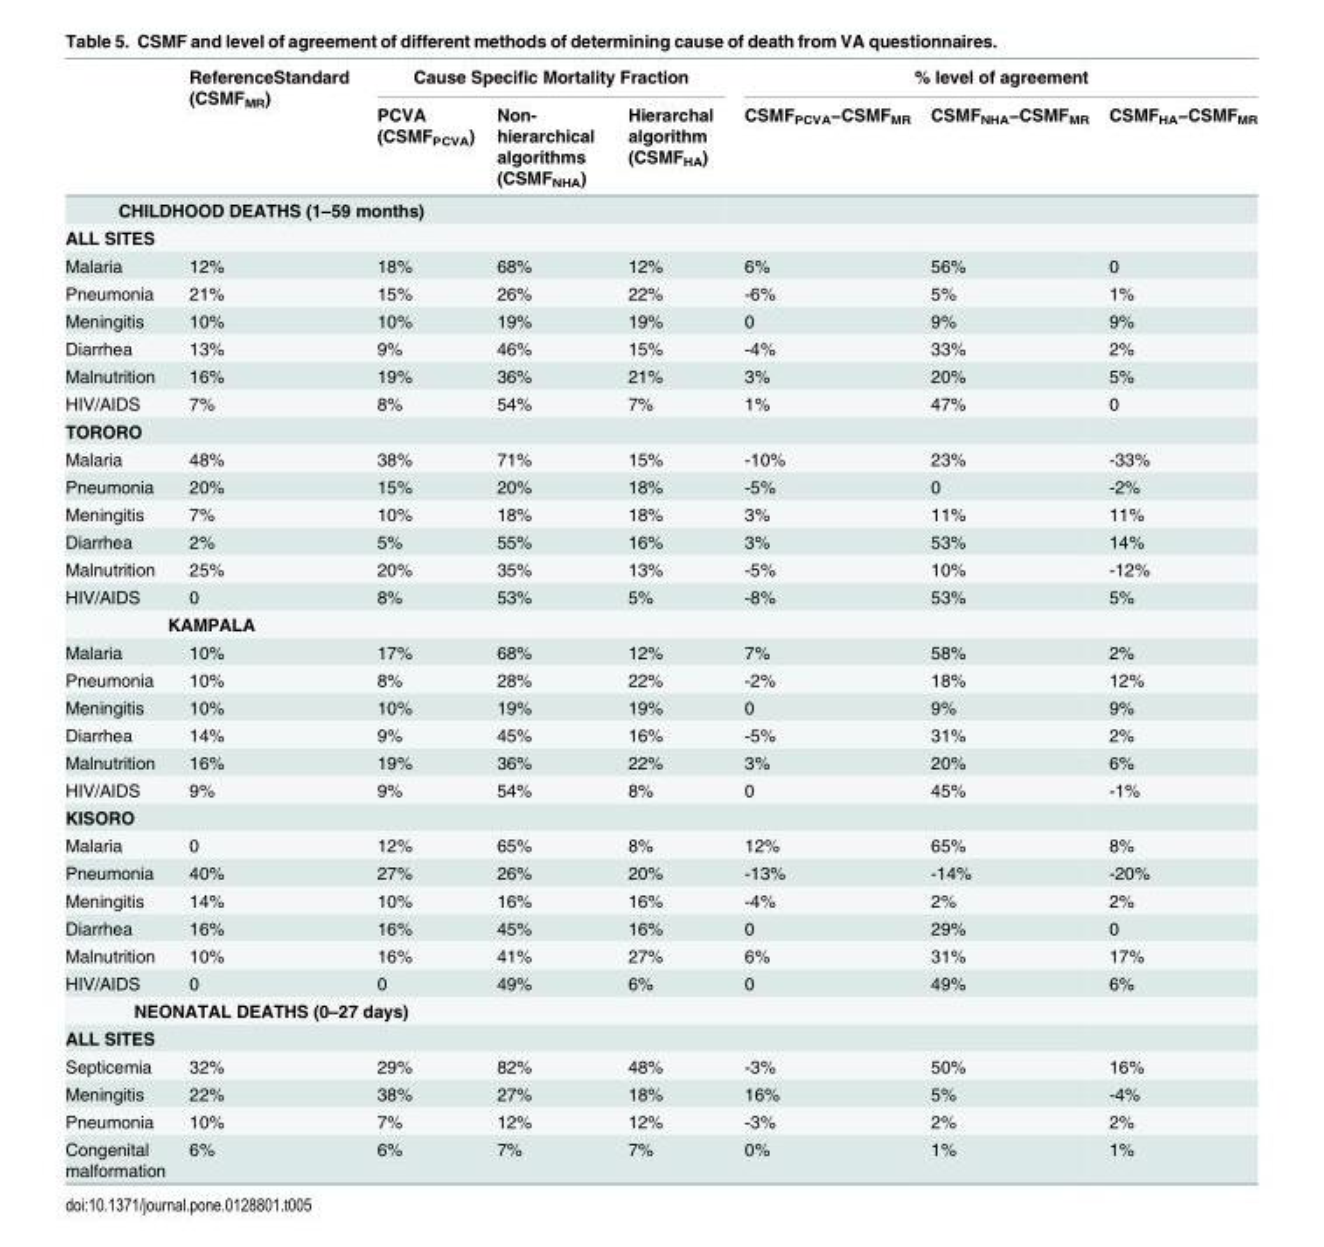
<table><thead><tr><td rowspan="2"></td><td rowspan="2">ReferenceStandard (CSMF<sub>MR</sub>)</td><td colspan="3">Cause Specific Mortality Fraction</td><td colspan="3">% level of agreement</td></tr><tr><td>PCVA (CSMF<sub>PCVA</sub>)</td><td>Non- hierarchical algorithms (CSMF<sub>NHA</sub>)</td><td>Hierarchal algorithm (CSMF<sub>HA</sub>)</td><td>CSMF<sub>PCVA</sub>−CSMF<sub>MR</sub></td><td>CSMF<sub>NHA</sub>−CSMF<sub>MR</sub></td><td>CSMF<sub>HA</sub>−CSMF<sub>MR</sub></td></tr></thead><tbody><tr><td colspan="8">CHILDHOOD DEATHS (1–59 months)</td></tr><tr><td colspan="8">ALL SITES</td></tr><tr><td>Malaria</td><td>12%</td><td>18%</td><td>68%</td><td>12%</td><td>6%</td><td>56%</td><td>0</td></tr><tr><td>Pneumonia</td><td>21%</td><td>15%</td><td>26%</td><td>22%</td><td>-6%</td><td>5%</td><td>1%</td></tr><tr><td>Meningitis</td><td>10%</td><td>10%</td><td>19%</td><td>19%</td><td>0</td><td>9%</td><td>9%</td></tr><tr><td>Diarrhea</td><td>13%</td><td>9%</td><td>46%</td><td>15%</td><td>-4%</td><td>33%</td><td>2%</td></tr><tr><td>Malnutrition</td><td>16%</td><td>19%</td><td>36%</td><td>21%</td><td>3%</td><td>20%</td><td>5%</td></tr><tr><td>HIV/AIDS</td><td>7%</td><td>8%</td><td>54%</td><td>7%</td><td>1%</td><td>47%</td><td>0</td></tr><tr><td colspan="8">TORORO</td></tr><tr><td>Malaria</td><td>48%</td><td>38%</td><td>71%</td><td>15%</td><td>-10%</td><td>23%</td><td>-33%</td></tr><tr><td>Pneumonia</td><td>20%</td><td>15%</td><td>20%</td><td>18%</td><td>-5%</td><td>0</td><td>-2%</td></tr><tr><td>Meningitis</td><td>7%</td><td>10%</td><td>18%</td><td>18%</td><td>3%</td><td>11%</td><td>11%</td></tr><tr><td>Diarrhea</td><td>2%</td><td>5%</td><td>55%</td><td>16%</td><td>3%</td><td>53%</td><td>14%</td></tr><tr><td>Malnutrition</td><td>25%</td><td>20%</td><td>35%</td><td>13%</td><td>-5%</td><td>10%</td><td>-12%</td></tr><tr><td>HIV/AIDS</td><td>0</td><td>8%</td><td>53%</td><td>5%</td><td>-8%</td><td>53%</td><td>5%</td></tr><tr><td colspan="8">KAMPALA</td></tr><tr><td>Malaria</td><td>10%</td><td>17%</td><td>68%</td><td>12%</td><td>7%</td><td>58%</td><td>2%</td></tr><tr><td>Pneumonia</td><td>10%</td><td>8%</td><td>28%</td><td>22%</td><td>-2%</td><td>18%</td><td>12%</td></tr><tr><td>Meningitis</td><td>10%</td><td>10%</td><td>19%</td><td>19%</td><td>0</td><td>9%</td><td>9%</td></tr><tr><td>Diarrhea</td><td>14%</td><td>9%</td><td>45%</td><td>16%</td><td>-5%</td><td>31%</td><td>2%</td></tr><tr><td>Malnutrition</td><td>16%</td><td>19%</td><td>36%</td><td>22%</td><td>3%</td><td>20%</td><td>6%</td></tr><tr><td>HIV/AIDS</td><td>9%</td><td>9%</td><td>54%</td><td>8%</td><td>0</td><td>45%</td><td>-1%</td></tr><tr><td colspan="8">KISORO</td></tr><tr><td>Malaria</td><td>0</td><td>12%</td><td>65%</td><td>8%</td><td>12%</td><td>65%</td><td>8%</td></tr><tr><td>Pneumonia</td><td>40%</td><td>27%</td><td>26%</td><td>20%</td><td>-13%</td><td>-14%</td><td>-20%</td></tr><tr><td>Meningitis</td><td>14%</td><td>10%</td><td>16%</td><td>16%</td><td>-4%</td><td>2%</td><td>2%</td></tr><tr><td>Diarrhea</td><td>16%</td><td>16%</td><td>45%</td><td>16%</td><td>0</td><td>29%</td><td>0</td></tr><tr><td>Malnutrition</td><td>10%</td><td>16%</td><td>41%</td><td>27%</td><td>6%</td><td>31%</td><td>17%</td></tr><tr><td>HIV/AIDS</td><td>0</td><td>0</td><td>49%</td><td>6%</td><td>0</td><td>49%</td><td>6%</td></tr><tr><td colspan="8">NEONATAL DEATHS (0–27 days)</td></tr><tr><td colspan="8">ALL SITES</td></tr><tr><td>Septicemia</td><td>32%</td><td>29%</td><td>82%</td><td>48%</td><td>-3%</td><td>50%</td><td>16%</td></tr><tr><td>Meningitis</td><td>22%</td><td>38%</td><td>27%</td><td>18%</td><td>16%</td><td>5%</td><td>-4%</td></tr><tr><td>Pneumonia</td><td>10%</td><td>7%</td><td>12%</td><td>12%</td><td>-3%</td><td>2%</td><td>2%</td></tr><tr><td>Congenital malformation</td><td>6%</td><td>6%</td><td>7%</td><td>7%</td><td>0%</td><td>1%</td><td>1%</td></tr></tbody></table>